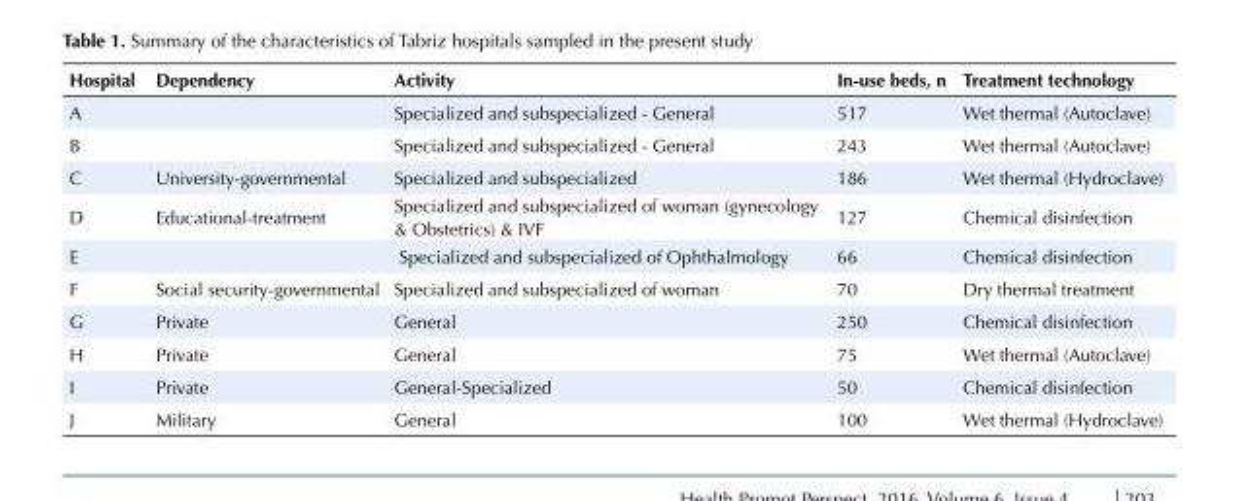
<table><tbody><tr><td>Hospital</td><td>Dependency</td><td>Activity</td><td>In-use beds, n</td><td>Treatment technology</td></tr><tr><td>A</td><td></td><td>Specialized and subspecialized - General</td><td>517</td><td>Wet thermal (Autoclave)</td></tr><tr><td>B</td><td></td><td>Specialized and subspecialized - General</td><td>243</td><td>Wet thermal (Autoclave)</td></tr><tr><td>C</td><td>University-governmental</td><td>Specialized and subspecialized</td><td>186</td><td>Wet thermal (Hydroclave)</td></tr><tr><td>D</td><td>Educational-treatment</td><td>Specialized and subspecialized of woman (gynecology &amp; Obstetrics) &amp; IVF</td><td>127</td><td>Chemical disinfection</td></tr><tr><td>E</td><td></td><td>Specialized and subspecialized of Ophthalmology</td><td>66</td><td>Chemical disinfection</td></tr><tr><td>F</td><td>Social security-governmental</td><td>Specialized and subspecialized of woman</td><td>70</td><td>Dry thermal treatment</td></tr><tr><td>G</td><td>Private</td><td>General</td><td>250</td><td>Chemical disinfection</td></tr><tr><td>H</td><td>Private</td><td>General</td><td>75</td><td>Wet thermal (Autoclave)</td></tr><tr><td>I</td><td>Private</td><td>General-Specialized</td><td>50</td><td>Chemical disinfection</td></tr><tr><td>J</td><td>Military</td><td>General</td><td>100</td><td>Wet thermal (Hydroclave)</td></tr></tbody></table>